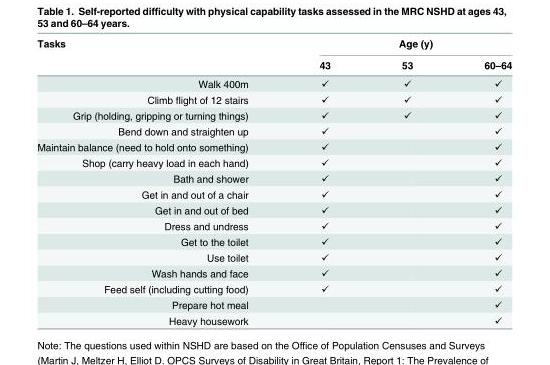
<table><thead><tr><td rowspan="2">Tasks</td><td colspan="3">Age (y)</td></tr><tr><td>43</td><td>53</td><td>60–64</td></tr></thead><tbody><tr><td>Walk 400m</td><td>✓</td><td>✓</td><td>✓</td></tr><tr><td>Climb flight of 12 stairs</td><td>✓</td><td>✓</td><td>✓</td></tr><tr><td>Grip (holding, gripping or turning things)</td><td>✓</td><td>✓</td><td>✓</td></tr><tr><td>Bend down and straighten up</td><td>✓</td><td></td><td>✓</td></tr><tr><td>Maintain balance (need to hold onto something)</td><td>✓</td><td></td><td>✓</td></tr><tr><td>Shop (carry heavy load in each hand)</td><td>✓</td><td></td><td>✓</td></tr><tr><td>Bath and shower</td><td>✓</td><td></td><td>✓</td></tr><tr><td>Get in and out of a chair</td><td>✓</td><td></td><td>✓</td></tr><tr><td>Get in and out of bed</td><td>✓</td><td></td><td>✓</td></tr><tr><td>Dress and undress</td><td>✓</td><td></td><td>✓</td></tr><tr><td>Get to the toilet</td><td>✓</td><td></td><td>✓</td></tr><tr><td>Use toilet</td><td>✓</td><td></td><td>✓</td></tr><tr><td>Wash hands and face</td><td>✓</td><td></td><td>✓</td></tr><tr><td>Feed self (including cutting food)</td><td>✓</td><td></td><td>✓</td></tr><tr><td>Prepare hot meal</td><td></td><td></td><td>✓</td></tr><tr><td>Heavy housework</td><td></td><td></td><td>✓</td></tr></tbody></table>